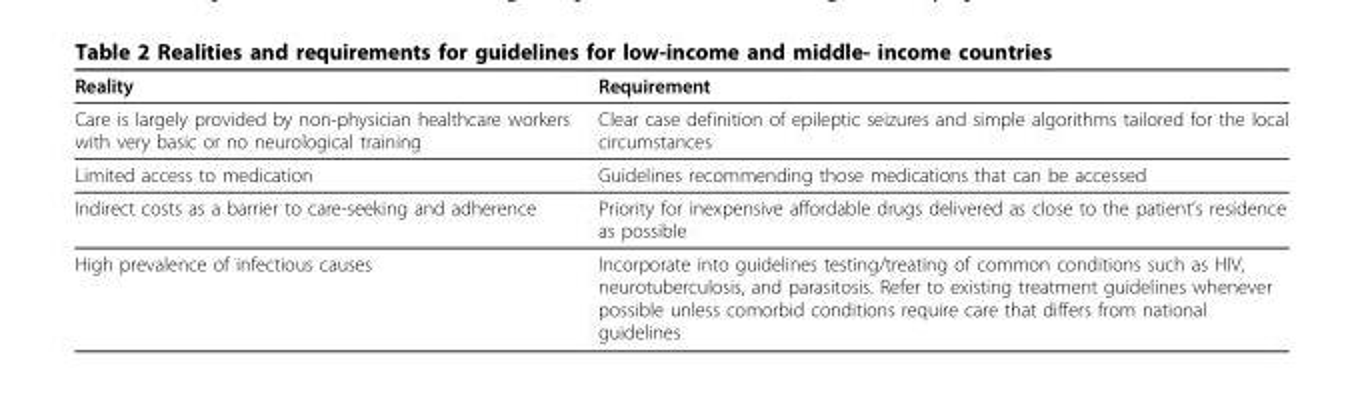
<table><thead><tr><td>Reality</td><td>Requirement</td></tr></thead><tbody><tr><td>Care is largely provided by non-physician healthcare workers with very basic or no neurological training</td><td>Clear case definition of epileptic seizures and simple algorithms tailored for the local circumstances</td></tr><tr><td>Limited access to medication</td><td>Guidelines recommending those medications that can be accessed</td></tr><tr><td>Indirect costs as a barrier to care-seeking and adherence</td><td>Priority for inexpensive affordable drugs delivered as close to the patient’s residence as possible</td></tr><tr><td>High prevalence of infectious causes</td><td>Incorporate into guidelines testing/treating of common conditions such as HIV, neurotuberculosis, and parasitosis. Refer to existing treatment guidelines whenever possible unless comorbid conditions require care that differs from national guidelines</td></tr></tbody></table>